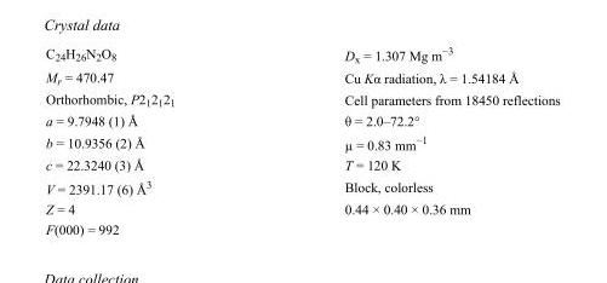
<table><tbody><tr><td>C<sub>24</sub>H<sub>26</sub>N<sub>2</sub>O<sub>8</sub></td><td>D<sub>x</sub> = 1.307 Mg m<sup>−3</sup></td></tr><tr><td>M<sub>r</sub> = 470.47</td><td>Cu Kα radiation, λ = 1.54184 Å</td></tr><tr><td>Orthorhombic, P2<sub>1</sub>2<sub>1</sub>2<sub>1</sub></td><td>Cell parameters from 18450 reflections</td></tr><tr><td>a = 9.7948 (1) Å</td><td>θ = 2.0–72.2°</td></tr><tr><td>b = 10.9356 (2) Å</td><td>µ = 0.83 mm<sup>−1</sup></td></tr><tr><td>c = 22.3240 (3) Å</td><td>T = 120 K</td></tr><tr><td>V = 2391.17 (6) Å<sup>3</sup></td><td>Block, colorless</td></tr><tr><td>Z = 4</td><td>0.44 × 0.40 × 0.36 mm</td></tr><tr><td>F(000) = 992</td><td></td></tr></tbody></table>